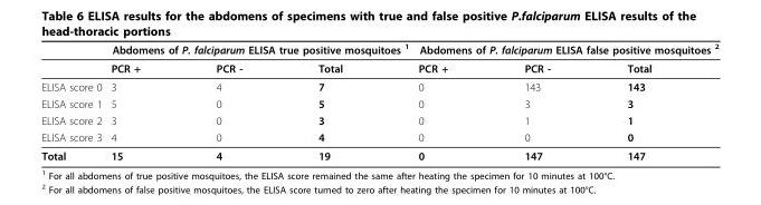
<table><thead><tr><td rowspan="2"></td><td colspan="3">Abdomens of P. falciparum ELISA true positive mosquitoes <sup>1</sup></td><td colspan="3">Abdomens of P. falciparum ELISA false positive mosquitoes <sup>2</sup></td></tr><tr><td>PCR +</td><td>PCR -</td><td>Total</td><td>PCR +</td><td>PCR -</td><td>Total</td></tr></thead><tbody><tr><td>ELISA score 0</td><td>3</td><td>4</td><td>7</td><td>0</td><td>143</td><td>143</td></tr><tr><td>ELISA score 1</td><td>5</td><td>0</td><td>5</td><td>0</td><td>3</td><td>3</td></tr><tr><td>ELISA score 2</td><td>3</td><td>0</td><td>3</td><td>0</td><td>1</td><td>1</td></tr><tr><td>ELISA score 3</td><td>4</td><td>0</td><td>4</td><td>0</td><td>0</td><td>0</td></tr><tr><td>Total</td><td>15</td><td>4</td><td>19</td><td>0</td><td>147</td><td>147</td></tr></tbody></table>